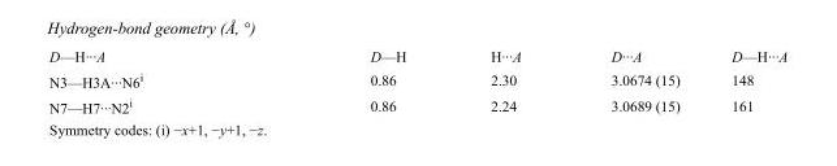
<table><tbody><tr><td>D—H···A</td><td>D—H</td><td>H···A</td><td>D···A</td><td>D—H···A</td></tr><tr><td>N3—H3A···N6<sup>i</sup></td><td>0.86</td><td>2.30</td><td>3.0674 (15)</td><td>148</td></tr><tr><td>N7—H7···N2<sup>i</sup></td><td>0.86</td><td>2.24</td><td>3.0689 (15)</td><td>161</td></tr></tbody></table>